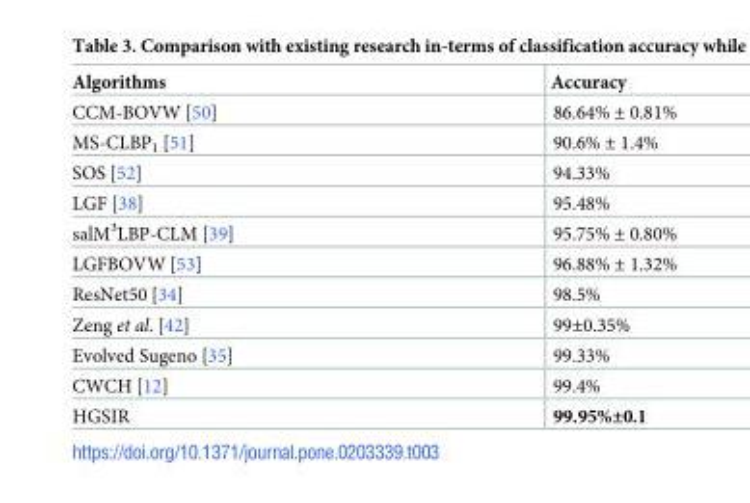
<table><thead><tr><td>Algorithms</td><td>Accuracy</td></tr></thead><tbody><tr><td>CCM-BOVW [50]</td><td>86.64% ± 0.81%</td></tr><tr><td>MS-CLBP<sub>1</sub> [51]</td><td>90.6% ± 1.4%</td></tr><tr><td>SOS [52]</td><td>94.33%</td></tr><tr><td>LGF [38]</td><td>95.48%</td></tr><tr><td>salM<sup>3</sup>LBP-CLM [39]</td><td>95.75% ± 0.80%</td></tr><tr><td>LGFBOVW [53]</td><td>96.88% ± 1.32%</td></tr><tr><td>ResNet50 [34]</td><td>98.5%</td></tr><tr><td>Zeng et al. [42]</td><td>99±0.35%</td></tr><tr><td>Evolved Sugeno [35]</td><td>99.33%</td></tr><tr><td>CWCH [12]</td><td>99.4%</td></tr><tr><td>HGSIR</td><td>99.95%±0.1</td></tr></tbody></table>